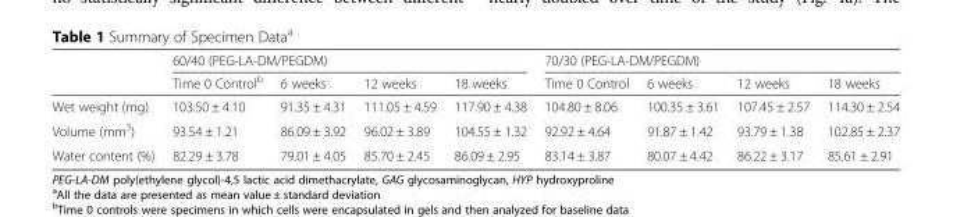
<table><thead><tr><td rowspan="2"></td><td colspan="4">60/40 (PEG-LA-DM/PEGDM)</td><td colspan="4">70/30 (PEG-LA-DM/PEGDM)</td></tr><tr><td>Time 0 Control<sup>b</sup></td><td>6 weeks</td><td>12 weeks</td><td>18 weeks</td><td>Time 0 Control</td><td>6 weeks</td><td>12 weeks</td><td>18 weeks</td></tr></thead><tbody><tr><td>Wet weight (mg)</td><td>103.50 ± 4.10</td><td>91.35 ± 4.31</td><td>111.05 ± 4.59</td><td>117.90 ± 4.38</td><td>104.80 ± 8.06</td><td>100.35 ± 3.61</td><td>107.45 ± 2.57</td><td>114.30 ± 2.54</td></tr><tr><td>Volume (mm<sup>3</sup>)</td><td>93.54 ± 1.21</td><td>86.09 ± 3.92</td><td>96.02 ± 3.89</td><td>104.55 ± 1.32</td><td>92.92 ± 4.64</td><td>91.87 ± 1.42</td><td>93.79 ± 1.38</td><td>102.85 ± 2.37</td></tr><tr><td>Water content (%)</td><td>82.29 ± 3.78</td><td>79.01 ± 4.05</td><td>85.70 ± 2.45</td><td>86.09 ± 2.95</td><td>83.14 ± 3.87</td><td>80.07 ± 4.42</td><td>86.22 ± 3.17</td><td>85.61 ± 2.91</td></tr></tbody></table>